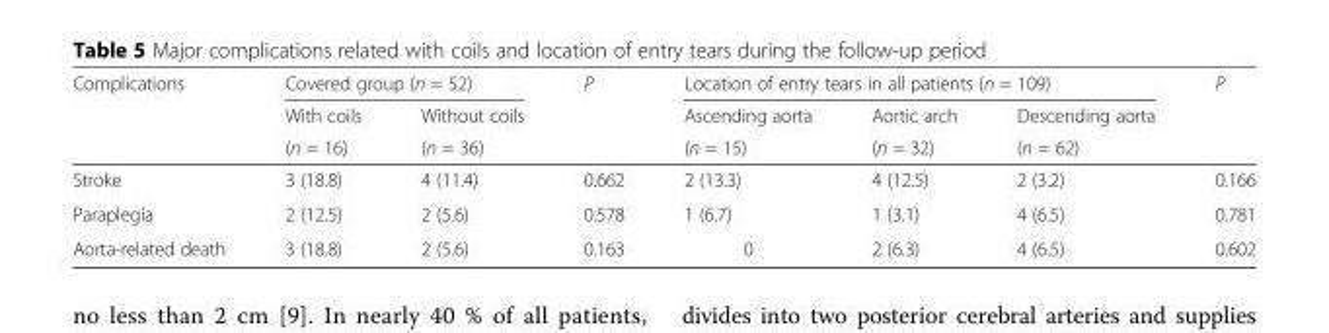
<table><thead><tr><td rowspan="3">Complications</td><td colspan="2">Covered group (n = 52)</td><td rowspan="3">P</td><td colspan="3">Location of entry tears in all patients (n = 109)</td><td rowspan="3">P</td></tr><tr><td rowspan="2">With coils (n = 16)</td><td rowspan="2">Without coils (n = 36)</td><td rowspan="2">Ascending aorta (n = 15)</td><td rowspan="2">Aortic arch (n = 32)</td><td rowspan="2">Descending aorta (n = 62)</td></tr><tr></tr></thead><tbody><tr><td>Stroke</td><td>3 (18.8)</td><td>4 (11.4)</td><td>0.662</td><td>2 (13.3)</td><td>4 (12.5)</td><td>2 (3.2)</td><td>0.166</td></tr><tr><td>Paraplegia</td><td>2 (12.5)</td><td>2 (5.6)</td><td>0.578</td><td>1 (6.7)</td><td>1 (3.1)</td><td>4 (6.5)</td><td>0.781</td></tr><tr><td>Aorta-related death</td><td>3 (18.8)</td><td>2 (5.6)</td><td>0.163</td><td>0</td><td>2 (6.3)</td><td>4 (6.5)</td><td>0.602</td></tr></tbody></table>